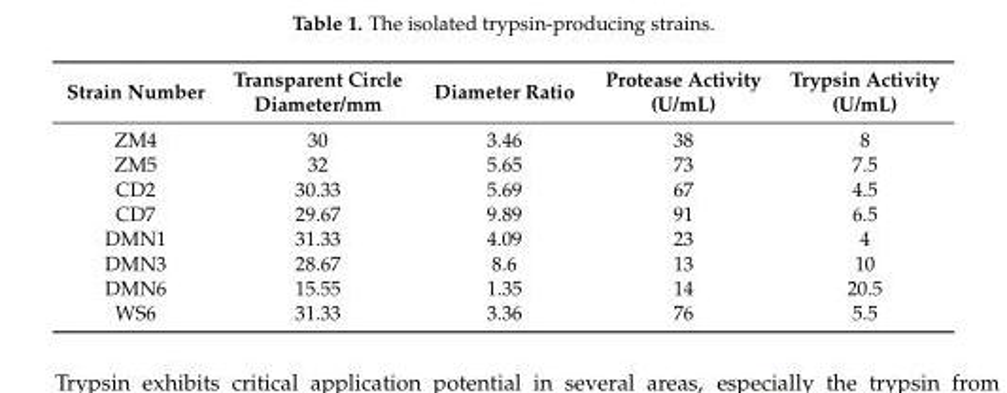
<table><thead><tr><td>Strain Number</td><td>Transparent Circle Diameter/mm</td><td>Diameter Ratio</td><td>Protease Activity (U/mL)</td><td>Trypsin Activity (U/mL)</td></tr></thead><tbody><tr><td>ZM4</td><td>30</td><td>3.46</td><td>38</td><td>8</td></tr><tr><td>ZM5</td><td>32</td><td>5.65</td><td>73</td><td>7.5</td></tr><tr><td>CD2</td><td>30.33</td><td>5.69</td><td>67</td><td>4.5</td></tr><tr><td>CD7</td><td>29.67</td><td>9.89</td><td>91</td><td>6.5</td></tr><tr><td>DMN1</td><td>31.33</td><td>4.09</td><td>23</td><td>4</td></tr><tr><td>DMN3</td><td>28.67</td><td>8.6</td><td>13</td><td>10</td></tr><tr><td>DMN6</td><td>15.55</td><td>1.35</td><td>14</td><td>20.5</td></tr><tr><td>WS6</td><td>31.33</td><td>3.36</td><td>76</td><td>5.5</td></tr></tbody></table>